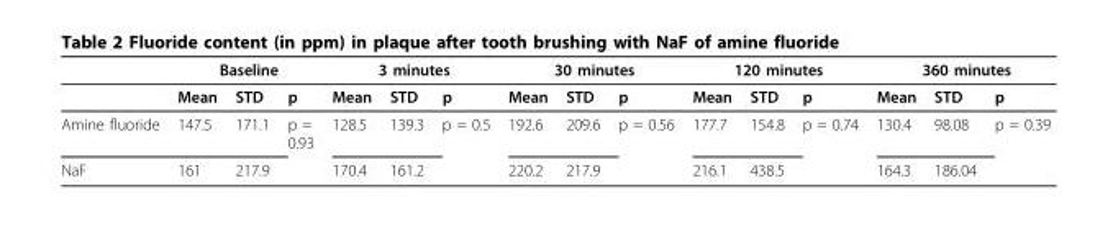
<table><thead><tr><td rowspan="2"></td><td colspan="3">Baseline</td><td colspan="3">3 minutes</td><td colspan="3">30 minutes</td><td colspan="3">120 minutes</td><td colspan="3">360 minutes</td></tr><tr><td>Mean</td><td>STD</td><td>p</td><td>Mean</td><td>STD</td><td>p</td><td>Mean</td><td>STD</td><td>p</td><td>Mean</td><td>STD</td><td>p</td><td>Mean</td><td>STD</td><td>p</td></tr></thead><tbody><tr><td>Amine fluoride</td><td>147.5</td><td>171.1</td><td>p = 0.93</td><td>128.5</td><td>139.3</td><td>p = 0.5</td><td>192.6</td><td>209.6</td><td>p = 0.56</td><td>177.7</td><td>154.8</td><td>p = 0.74</td><td>130.4</td><td>98.08</td><td>p = 0.39</td></tr><tr><td>NaF</td><td>161</td><td>217.9</td><td></td><td>170.4</td><td>161.2</td><td></td><td>220.2</td><td>217.9</td><td></td><td>216.1</td><td>438.5</td><td></td><td>164.3</td><td>186.04</td><td></td></tr></tbody></table>